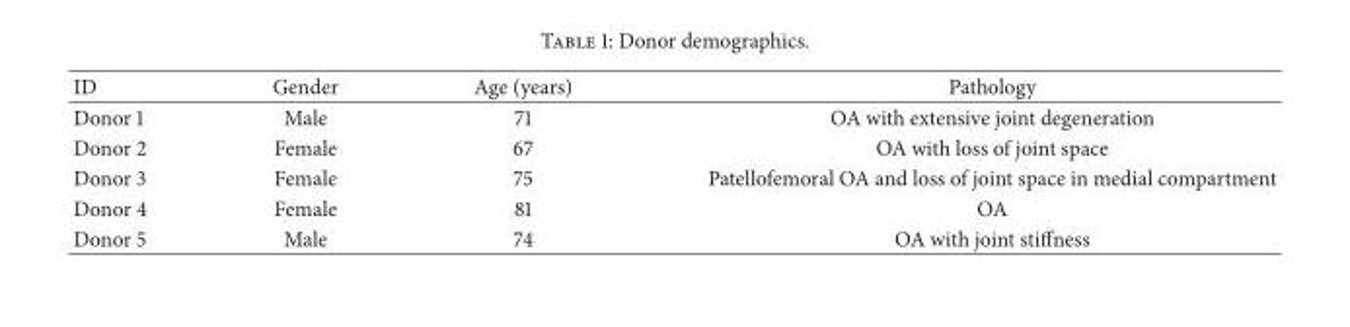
<table><thead><tr><td>ID</td><td>Gender</td><td>Age (years)</td><td>Pathology</td></tr></thead><tbody><tr><td>Donor 1</td><td>Male</td><td>71</td><td>OA with extensive joint degeneration</td></tr><tr><td>Donor 2</td><td>Female</td><td>67</td><td>OA with loss of joint space</td></tr><tr><td>Donor 3</td><td>Female</td><td>75</td><td>Patellofemoral OA and loss of joint space in medial compartment</td></tr><tr><td>Donor 4</td><td>Female</td><td>81</td><td>OA</td></tr><tr><td>Donor 5</td><td>Male</td><td>74</td><td>OA with joint stiffness</td></tr></tbody></table>